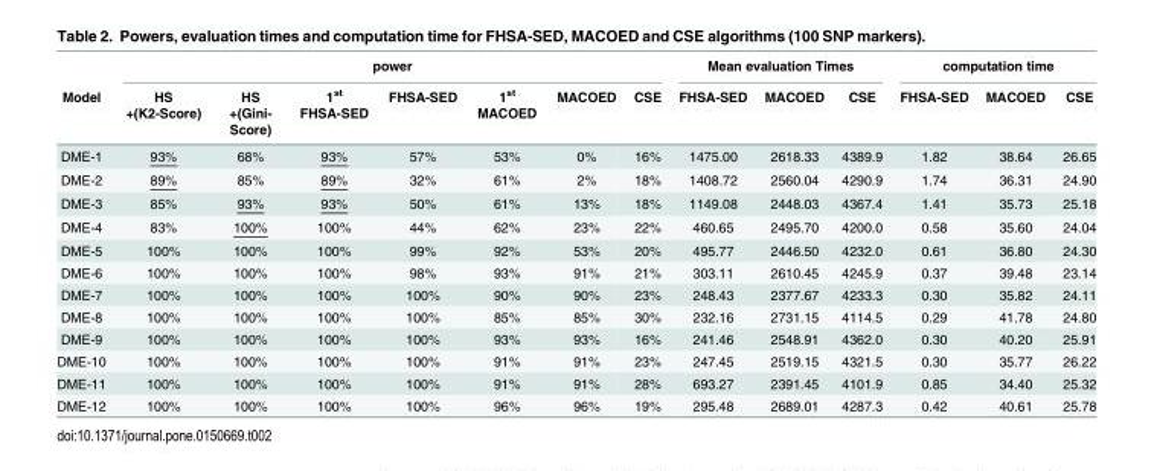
<table><thead><tr><td rowspan="2">Model</td><td colspan="7">power</td><td colspan="3">Mean evaluation Times</td><td colspan="3">computation time</td></tr><tr><td>HS +(K2-Score)</td><td>HS +(Gini- Score)</td><td>1<sup>st</sup> FHSA-SED</td><td>FHSA-SED</td><td>1<sup>st</sup> MACOED</td><td>MACOED</td><td>CSE</td><td>FHSA-SED</td><td>MACOED</td><td>CSE</td><td>FHSA-SED</td><td>MACOED</td><td>CSE</td></tr></thead><tbody><tr><td>DME-1</td><td>93%</td><td>68%</td><td>93%</td><td>57%</td><td>53%</td><td>0%</td><td>16%</td><td>1475.00</td><td>2618.33</td><td>4389.9</td><td>1.82</td><td>38.64</td><td>26.65</td></tr><tr><td>DME-2</td><td>89%</td><td>85%</td><td>89%</td><td>32%</td><td>61%</td><td>2%</td><td>18%</td><td>1408.72</td><td>2560.04</td><td>4290.9</td><td>1.74</td><td>36.31</td><td>24.90</td></tr><tr><td>DME-3</td><td>85%</td><td>93%</td><td>93%</td><td>50%</td><td>61%</td><td>13%</td><td>18%</td><td>1149.08</td><td>2448.03</td><td>4367.4</td><td>1.41</td><td>35.73</td><td>25.18</td></tr><tr><td>DME-4</td><td>83%</td><td>100%</td><td>100%</td><td>44%</td><td>62%</td><td>23%</td><td>22%</td><td>460.65</td><td>2495.70</td><td>4200.0</td><td>0.58</td><td>35.60</td><td>24.04</td></tr><tr><td>DME-5</td><td>100%</td><td>100%</td><td>100%</td><td>99%</td><td>92%</td><td>53%</td><td>20%</td><td>495.77</td><td>2446.50</td><td>4232.0</td><td>0.61</td><td>36.80</td><td>24.30</td></tr><tr><td>DME-6</td><td>100%</td><td>100%</td><td>100%</td><td>98%</td><td>93%</td><td>91%</td><td>21%</td><td>303.11</td><td>2610.45</td><td>4245.9</td><td>0.37</td><td>39.48</td><td>23.14</td></tr><tr><td>DME-7</td><td>100%</td><td>100%</td><td>100%</td><td>100%</td><td>90%</td><td>90%</td><td>23%</td><td>248.43</td><td>2377.67</td><td>4233.3</td><td>0.30</td><td>35.82</td><td>24.11</td></tr><tr><td>DME-8</td><td>100%</td><td>100%</td><td>100%</td><td>100%</td><td>85%</td><td>85%</td><td>30%</td><td>232.16</td><td>2731.15</td><td>4114.5</td><td>0.29</td><td>41.78</td><td>24.80</td></tr><tr><td>DME-9</td><td>100%</td><td>100%</td><td>100%</td><td>100%</td><td>93%</td><td>93%</td><td>16%</td><td>241.46</td><td>2548.91</td><td>4362.0</td><td>0.30</td><td>40.20</td><td>25.91</td></tr><tr><td>DME-10</td><td>100%</td><td>100%</td><td>100%</td><td>100%</td><td>91%</td><td>91%</td><td>23%</td><td>247.45</td><td>2519.15</td><td>4321.5</td><td>0.30</td><td>35.77</td><td>26.22</td></tr><tr><td>DME-11</td><td>100%</td><td>100%</td><td>100%</td><td>100%</td><td>91%</td><td>91%</td><td>28%</td><td>693.27</td><td>2391.45</td><td>4101.9</td><td>0.85</td><td>34.40</td><td>25.32</td></tr><tr><td>DME-12</td><td>100%</td><td>100%</td><td>100%</td><td>100%</td><td>96%</td><td>96%</td><td>19%</td><td>295.48</td><td>2689.01</td><td>4287.3</td><td>0.42</td><td>40.61</td><td>25.78</td></tr></tbody></table>